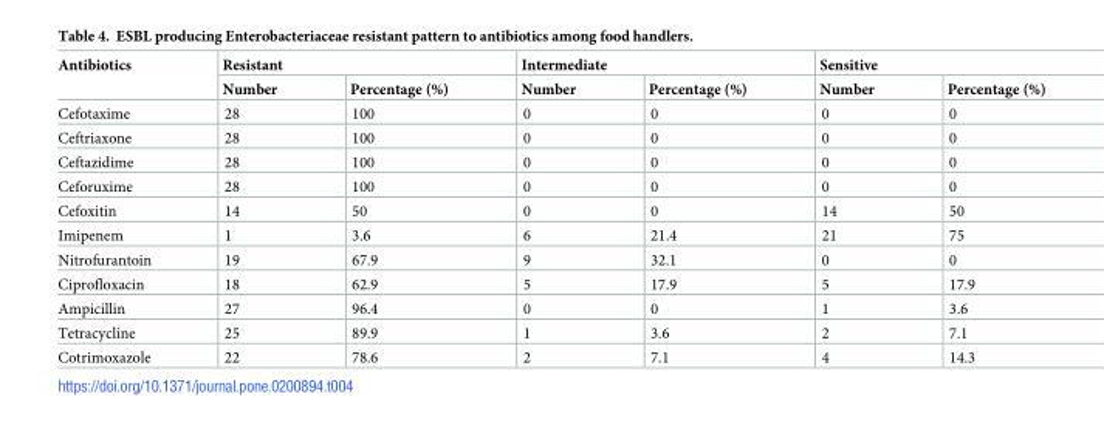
<table><thead><tr><td rowspan="2">Antibiotics</td><td colspan="2">Resistant</td><td colspan="2">Intermediate</td><td colspan="2">Sensitive</td></tr><tr><td>Number</td><td>Percentage (%)</td><td>Number</td><td>Percentage (%)</td><td>Number</td><td>Percentage (%)</td></tr></thead><tbody><tr><td>Cefotaxime</td><td>28</td><td>100</td><td>0</td><td>0</td><td>0</td><td>0</td></tr><tr><td>Ceftriaxone</td><td>28</td><td>100</td><td>0</td><td>0</td><td>0</td><td>0</td></tr><tr><td>Ceftazidime</td><td>28</td><td>100</td><td>0</td><td>0</td><td>0</td><td>0</td></tr><tr><td>Ceforuxime</td><td>28</td><td>100</td><td>0</td><td>0</td><td>0</td><td>0</td></tr><tr><td>Cefoxitin</td><td>14</td><td>50</td><td>0</td><td>0</td><td>14</td><td>50</td></tr><tr><td>Imipenem</td><td>1</td><td>3.6</td><td>6</td><td>21.4</td><td>21</td><td>75</td></tr><tr><td>Nitrofurantoin</td><td>19</td><td>67.9</td><td>9</td><td>32.1</td><td>0</td><td>0</td></tr><tr><td>Ciprofloxacin</td><td>18</td><td>62.9</td><td>5</td><td>17.9</td><td>5</td><td>17.9</td></tr><tr><td>Ampicillin</td><td>27</td><td>96.4</td><td>0</td><td>0</td><td>1</td><td>3.6</td></tr><tr><td>Tetracycline</td><td>25</td><td>89.9</td><td>1</td><td>3.6</td><td>2</td><td>7.1</td></tr><tr><td>Cotrimoxazole</td><td>22</td><td>78.6</td><td>2</td><td>7.1</td><td>4</td><td>14.3</td></tr></tbody></table>